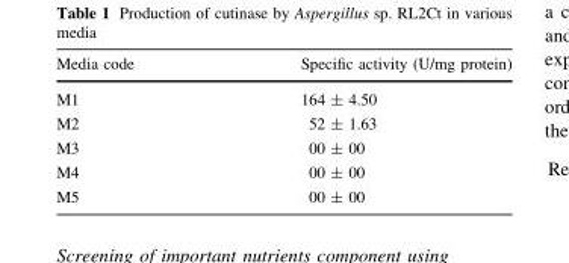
<table><thead><tr><td>Media code</td><td>Specific activity (U/mg protein)</td></tr></thead><tbody><tr><td>M1</td><td>164 ± 4.50</td></tr><tr><td>M2</td><td>52 ± 1.63</td></tr><tr><td>M3</td><td>00 ± 00</td></tr><tr><td>M4</td><td>00 ± 00</td></tr><tr><td>M5</td><td>00 ± 00</td></tr></tbody></table>